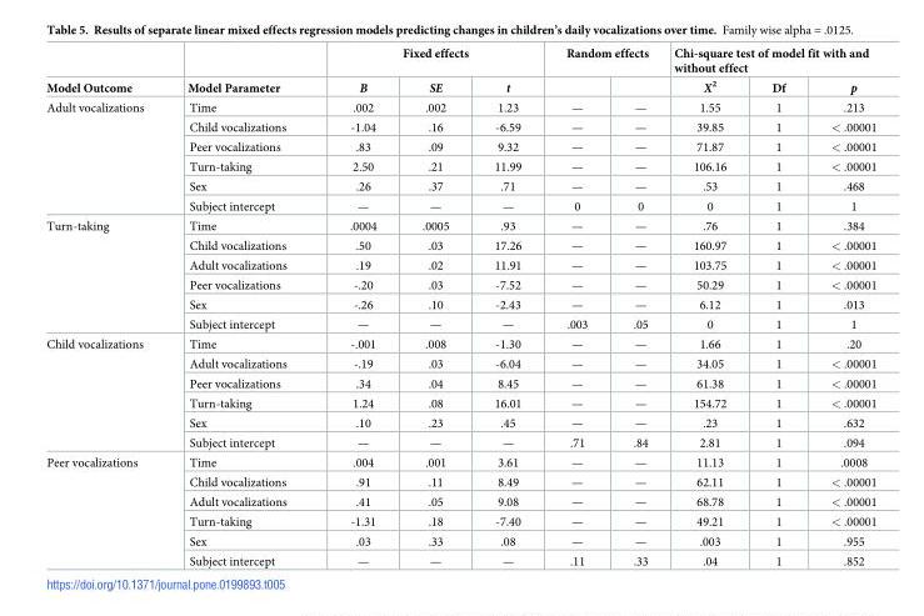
<table><thead><tr><td rowspan="2">Model Outcome</td><td rowspan="2">Model Parameter</td><td colspan="3">Fixed effects</td><td colspan="2">Random effects</td><td colspan="3">Chi-square test of model fit with and without effect</td></tr><tr><td>B</td><td>SE</td><td>t</td><td></td><td></td><td>X<sup>2</sup></td><td>Df</td><td>p</td></tr></thead><tbody><tr><td rowspan="6">Adult vocalizations</td><td>Time</td><td>.002</td><td>.002</td><td>1.23</td><td>—</td><td>—</td><td>1.55</td><td>1</td><td>.213</td></tr><tr><td>Child vocalizations</td><td>-1.04</td><td>.16</td><td>-6.59</td><td>—</td><td>—</td><td>39.85</td><td>1</td><td>&lt; .00001</td></tr><tr><td>Peer vocalizations</td><td>.83</td><td>.09</td><td>9.32</td><td>—</td><td>—</td><td>71.87</td><td>1</td><td>&lt; .00001</td></tr><tr><td>Turn-taking</td><td>2.50</td><td>.21</td><td>11.99</td><td>—</td><td>—</td><td>106.16</td><td>1</td><td>&lt; .00001</td></tr><tr><td>Sex</td><td>.26</td><td>.37</td><td>.71</td><td>—</td><td>—</td><td>.53</td><td>1</td><td>.468</td></tr><tr><td>Subject intercept</td><td>—</td><td>—</td><td>—</td><td>0</td><td>0</td><td>0</td><td>1</td><td>1</td></tr><tr><td rowspan="6">Turn-taking</td><td>Time</td><td>.0004</td><td>.0005</td><td>.93</td><td>—</td><td>—</td><td>.76</td><td>1</td><td>.384</td></tr><tr><td>Child vocalizations</td><td>.50</td><td>.03</td><td>17.26</td><td>—</td><td>—</td><td>160.97</td><td>1</td><td>&lt; .00001</td></tr><tr><td>Adult vocalizations</td><td>.19</td><td>.02</td><td>11.91</td><td>—</td><td>—</td><td>103.75</td><td>1</td><td>&lt; .00001</td></tr><tr><td>Peer vocalizations</td><td>-.20</td><td>.03</td><td>-7.52</td><td>—</td><td>—</td><td>50.29</td><td>1</td><td>&lt; .00001</td></tr><tr><td>Sex</td><td>-.26</td><td>.10</td><td>-2.43</td><td>—</td><td>—</td><td>6.12</td><td>1</td><td>.013</td></tr><tr><td>Subject intercept</td><td>—</td><td>—</td><td>—</td><td>.003</td><td>.05</td><td>0</td><td>1</td><td>1</td></tr><tr><td rowspan="6">Child vocalizations</td><td>Time</td><td>-.001</td><td>.008</td><td>-1.30</td><td>—</td><td>—</td><td>1.66</td><td>1</td><td>.20</td></tr><tr><td>Adult vocalizations</td><td>-.19</td><td>.03</td><td>-6.04</td><td>—</td><td>—</td><td>34.05</td><td>1</td><td>&lt; .00001</td></tr><tr><td>Peer vocalizations</td><td>.34</td><td>.04</td><td>8.45</td><td>—</td><td>—</td><td>61.38</td><td>1</td><td>&lt; .00001</td></tr><tr><td>Turn-taking</td><td>1.24</td><td>.08</td><td>16.01</td><td>—</td><td>—</td><td>154.72</td><td>1</td><td>&lt; .00001</td></tr><tr><td>Sex</td><td>.10</td><td>.23</td><td>.45</td><td>—</td><td>—</td><td>.23</td><td>1</td><td>.632</td></tr><tr><td>Subject intercept</td><td>—</td><td>—</td><td>—</td><td>.71</td><td>.84</td><td>2.81</td><td>1</td><td>.094</td></tr><tr><td rowspan="6">Peer vocalizations</td><td>Time</td><td>.004</td><td>.001</td><td>3.61</td><td>—</td><td>—</td><td>11.13</td><td>1</td><td>.0008</td></tr><tr><td>Child vocalizations</td><td>.91</td><td>.11</td><td>8.49</td><td>—</td><td>—</td><td>62.11</td><td>1</td><td>&lt; .00001</td></tr><tr><td>Adult vocalizations</td><td>.41</td><td>.05</td><td>9.08</td><td>—</td><td>—</td><td>68.78</td><td>1</td><td>&lt; .00001</td></tr><tr><td>Turn-taking</td><td>-1.31</td><td>.18</td><td>-7.40</td><td>—</td><td>—</td><td>49.21</td><td>1</td><td>&lt; .00001</td></tr><tr><td>Sex</td><td>.03</td><td>.33</td><td>.08</td><td>—</td><td>—</td><td>.003</td><td>1</td><td>.955</td></tr><tr><td>Subject intercept</td><td>—</td><td>—</td><td>—</td><td>.11</td><td>.33</td><td>.04</td><td>1</td><td>.852</td></tr></tbody></table>